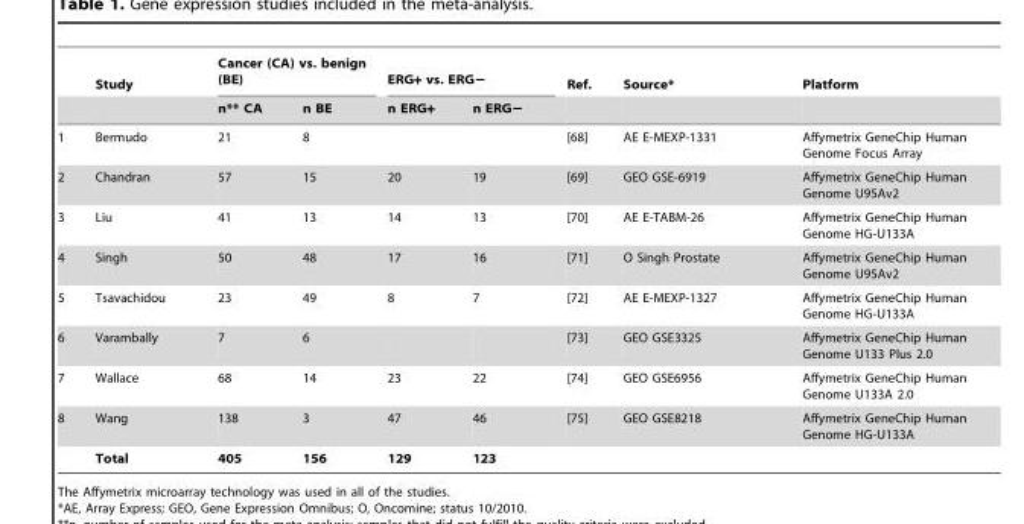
<table><thead><tr><td rowspan="2"></td><td rowspan="2">Study</td><td colspan="2">Cancer (CA) vs. benign (BE)</td><td colspan="2">ERG+ vs. ERG−</td><td rowspan="2">Ref.</td><td rowspan="2">Source*</td><td rowspan="2">Platform</td></tr><tr><td>n** CA</td><td>n BE</td><td>n ERG+</td><td>n ERG−</td></tr></thead><tbody><tr><td>1</td><td>Bermudo</td><td>21</td><td>8</td><td></td><td></td><td>[68]</td><td>AE E-MEXP-1331</td><td>Affymetrix GeneChip Human Genome Focus Array</td></tr><tr><td>2</td><td>Chandran</td><td>57</td><td>15</td><td>20</td><td>19</td><td>[69]</td><td>GEO GSE-6919</td><td>Affymetrix GeneChip Human Genome U95Av2</td></tr><tr><td>3</td><td>Liu</td><td>41</td><td>13</td><td>14</td><td>13</td><td>[70]</td><td>AE E-TABM-26</td><td>Affymetrix GeneChip Human Genome HG-U133A</td></tr><tr><td>4</td><td>Singh</td><td>50</td><td>48</td><td>17</td><td>16</td><td>[71]</td><td>O Singh Prostate</td><td>Affymetrix GeneChip Human Genome U95Av2</td></tr><tr><td>5</td><td>Tsavachidou</td><td>23</td><td>49</td><td>8</td><td>7</td><td>[72]</td><td>AE E-MEXP-1327</td><td>Affymetrix GeneChip Human Genome HG-U133A</td></tr><tr><td>6</td><td>Varambally</td><td>7</td><td>6</td><td></td><td></td><td>[73]</td><td>GEO GSE3325</td><td>Affymetrix GeneChip Human Genome U133 Plus 2.0</td></tr><tr><td>7</td><td>Wallace</td><td>68</td><td>14</td><td>23</td><td>22</td><td>[74]</td><td>GEO GSE6956</td><td>Affymetrix GeneChip Human Genome U133A 2.0</td></tr><tr><td rowspan="2">8</td><td>Wang</td><td>138</td><td>3</td><td>47</td><td>46</td><td>[75]</td><td>GEO GSE8218</td><td>Affymetrix GeneChip Human Genome HG-U133A</td></tr><tr><td>Total</td><td>405</td><td>156</td><td>129</td><td>123</td><td></td><td></td><td></td></tr></tbody></table>